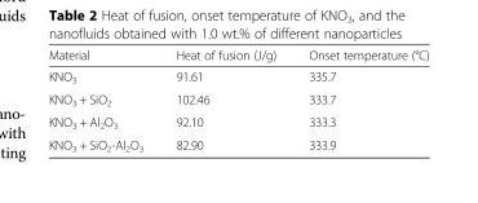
<table><thead><tr><td>Material</td><td>Heat of fusion (J/g)</td><td>Onset temperature (°C)</td></tr></thead><tbody><tr><td>KNO<sub>3</sub></td><td>91.61</td><td>335.7</td></tr><tr><td>KNO<sub>3</sub> + SiO<sub>2</sub></td><td>102.46</td><td>333.7</td></tr><tr><td>KNO<sub>3</sub> + Al<sub>2</sub>O<sub>3</sub></td><td>92.10</td><td>333.3</td></tr><tr><td>KNO<sub>3</sub> + SiO<sub>2</sub>-Al<sub>2</sub>O<sub>3</sub></td><td>82.90</td><td>333.9</td></tr></tbody></table>